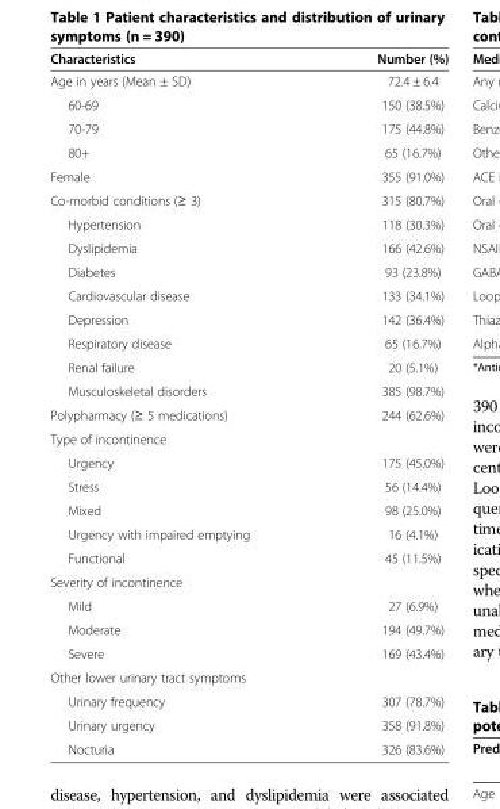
<table><thead><tr><td>Characteristics</td><td>Number (%)</td></tr></thead><tbody><tr><td>Age in years (Mean ± SD)</td><td>72.4 ± 6.4</td></tr><tr><td>60-69</td><td>150 (38.5%)</td></tr><tr><td>70-79</td><td>175 (44.8%)</td></tr><tr><td>80+</td><td>65 (16.7%)</td></tr><tr><td>Female</td><td>355 (91.0%)</td></tr><tr><td>Co-morbid conditions (≥ 3)</td><td>315 (80.7%)</td></tr><tr><td>Hypertension</td><td>118 (30.3%)</td></tr><tr><td>Dyslipidemia</td><td>166 (42.6%)</td></tr><tr><td>Diabetes</td><td>93 (23.8%)</td></tr><tr><td>Cardiovascular disease</td><td>133 (34.1%)</td></tr><tr><td>Depression</td><td>142 (36.4%)</td></tr><tr><td>Respiratory disease</td><td>65 (16.7%)</td></tr><tr><td>Renal failure</td><td>20 (5.1%)</td></tr><tr><td>Musculoskeletal disorders</td><td>385 (98.7%)</td></tr><tr><td>Polypharmacy (≥ 5 medications)</td><td>244 (62.6%)</td></tr><tr><td colspan="2">Type of incontinence</td></tr><tr><td>Urgency</td><td>175 (45.0%)</td></tr><tr><td>Stress</td><td>56 (14.4%)</td></tr><tr><td>Mixed</td><td>98 (25.0%)</td></tr><tr><td>Urgency with impaired emptying</td><td>16 (4.1%)</td></tr><tr><td>Functional</td><td>45 (11.5%)</td></tr><tr><td colspan="2">Severity of incontinence</td></tr><tr><td>Mild</td><td>27 (6.9%)</td></tr><tr><td>Moderate</td><td>194 (49.7%)</td></tr><tr><td>Severe</td><td>169 (43.4%)</td></tr><tr><td colspan="2">Other lower urinary tract symptoms</td></tr><tr><td>Urinary frequency</td><td>307 (78.7%)</td></tr><tr><td>Urinary urgency</td><td>358 (91.8%)</td></tr><tr><td>Nocturia</td><td>326 (83.6%)</td></tr></tbody></table>